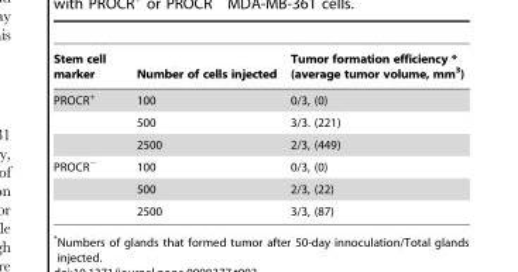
<table><thead><tr><td>Stem cell marker</td><td>Number of cells injected</td><td>Tumor formation efficiency * (average tumor volume, mm<sup>3</sup>)</td></tr></thead><tbody><tr><td rowspan="3">PROCR<sup>+</sup></td><td>100</td><td>0/3, (0)</td></tr><tr><td>500</td><td>3/3. (221)</td></tr><tr><td>2500</td><td>2/3, (449)</td></tr><tr><td rowspan="3">PROCR<sup>−</sup></td><td>100</td><td>0/3, (0)</td></tr><tr><td>500</td><td>2/3, (22)</td></tr><tr><td>2500</td><td>3/3, (87)</td></tr></tbody></table>